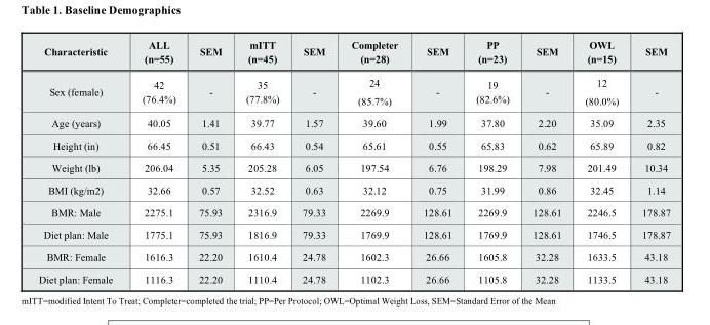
<table><thead><tr><td>Characteristic</td><td>ALL (n=55)</td><td>SEM</td><td>mITT (n=45)</td><td>SEM</td><td>Completer (n=28)</td><td>SEM</td><td>PP (n=23)</td><td>SEM</td><td>OWL (n=15)</td><td>SEM</td></tr></thead><tbody><tr><td>Sex (female)</td><td>42 (76.4%)</td><td>-</td><td>35 (77.8%)</td><td>-</td><td>24 (85.7%)</td><td>-</td><td>19 (82.6%)</td><td>-</td><td>12 (80.0%)</td><td>-</td></tr><tr><td>Age (years)</td><td>40.05</td><td>1.41</td><td>39.77</td><td>1.57</td><td>39.60</td><td>1.99</td><td>37.80</td><td>2.20</td><td>35.09</td><td>2.35</td></tr><tr><td>Height (in)</td><td>66.45</td><td>0.51</td><td>66.43</td><td>0.54</td><td>65.61</td><td>0.55</td><td>65.83</td><td>0.62</td><td>65.89</td><td>0.82</td></tr><tr><td>Weight (lb)</td><td>206.04</td><td>5.35</td><td>205.28</td><td>6.05</td><td>197.54</td><td>6.76</td><td>198.29</td><td>7.98</td><td>201.49</td><td>10.34</td></tr><tr><td>BMI (kg/m2)</td><td>32.66</td><td>0.57</td><td>32.52</td><td>0.63</td><td>32.12</td><td>0.75</td><td>31.99</td><td>0.86</td><td>32.45</td><td>1.14</td></tr><tr><td>BMR: Male</td><td>2275.1</td><td>75.93</td><td>2316.9</td><td>79.33</td><td>2269.9</td><td>128.61</td><td>2269.9</td><td>128.61</td><td>2246.5</td><td>178.87</td></tr><tr><td>Diet plan: Male</td><td>1775.1</td><td>75.93</td><td>1816.9</td><td>79.33</td><td>1769.9</td><td>128.61</td><td>1769.9</td><td>128.61</td><td>1746.5</td><td>178.87</td></tr><tr><td>BMR: Female</td><td>1616.3</td><td>22.20</td><td>1610.4</td><td>24.78</td><td>1602.3</td><td>26.66</td><td>1605.8</td><td>32.28</td><td>1633.5</td><td>43.18</td></tr><tr><td>Diet plan: Female</td><td>1116.3</td><td>22.20</td><td>1110.4</td><td>24.78</td><td>1102.3</td><td>26.66</td><td>1105.8</td><td>32.28</td><td>1133.5</td><td>43.18</td></tr></tbody></table>